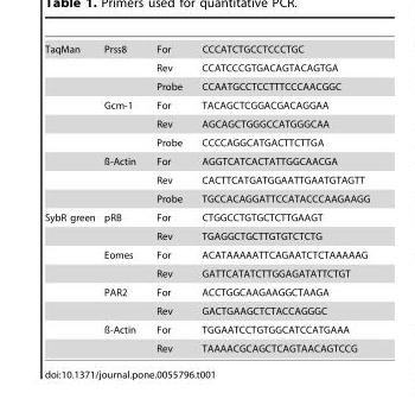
<table><tbody><tr><td rowspan="9">TaqMan</td><td>Prss8</td><td>For</td><td>CCCATCTGCCTCCCTGC</td></tr><tr><td></td><td>Rev</td><td>CCATCCCGTGACAGTACAGTGA</td></tr><tr><td></td><td>Probe</td><td>CCAATGCCTCCTTTCCCAACGGC</td></tr><tr><td>Gcm-1</td><td>For</td><td>TACAGCTCGGACGACAGGAA</td></tr><tr><td></td><td>Rev</td><td>AGCAGCTGGGCCATGGGCAA</td></tr><tr><td></td><td>Probe</td><td>CCCCAGGCATGACTTCTTGA</td></tr><tr><td>ß-Actin</td><td>For</td><td>AGGTCATCACTATTGGCAACGA</td></tr><tr><td></td><td>Rev</td><td>CACTTCATGATGGAATTGAATGTAGTT</td></tr><tr><td></td><td>Probe</td><td>TGCCACAGGATTCCATACCCAAGAAGG</td></tr><tr><td rowspan="8">SybR green</td><td>pRB</td><td>For</td><td>CTGGCCTGTGCTCTTGAAGT</td></tr><tr><td></td><td>Rev</td><td>TGAGGCTGCTTGTGTCTCTG</td></tr><tr><td>Eomes</td><td>For</td><td>ACATAAAAATTCAGAATCTCTAAAAAG</td></tr><tr><td></td><td>Rev</td><td>GATTCATATCTTGGAGATATTCTGT</td></tr><tr><td>PAR2</td><td>For</td><td>ACCTGGCAAGAAGGCTAAGA</td></tr><tr><td></td><td>Rev</td><td>GACTGAAGCTCTACCAGGGC</td></tr><tr><td>ß-Actin</td><td>For</td><td>TGGAATCCTGTGGCATCCATGAAA</td></tr><tr><td></td><td>Rev</td><td>TAAAACGCAGCTCAGTAACAGTCCG</td></tr></tbody></table>